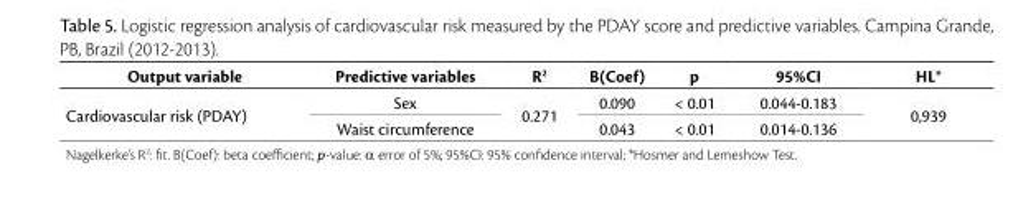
<table><thead><tr><td>Output variable</td><td>Predictive variables</td><td>R2</td><td>B(Coef)</td><td>p</td><td>95%CI</td><td>HL*</td></tr></thead><tbody><tr><td rowspan="2">Cardiovascular risk (PDAY)</td><td>Sex</td><td rowspan="2">0.271</td><td>0.090</td><td>&lt; 0.01</td><td>0.044-0.183</td><td rowspan="2">0,939</td></tr><tr><td>Waist circumference</td><td>0.043</td><td>&lt; 0.01</td><td>0.014-0.136</td></tr></tbody></table>